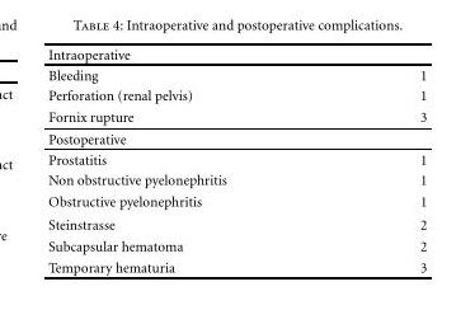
<table><thead><tr><td>Intraoperative</td><td></td></tr></thead><tbody><tr><td>Bleeding</td><td>1</td></tr><tr><td>Perforation (renal pelvis)</td><td>1</td></tr><tr><td>Fornix rupture</td><td>3</td></tr><tr><td colspan="2">Postoperative</td></tr><tr><td>Prostatitis</td><td>1</td></tr><tr><td>Non obstructive pyelonephritis</td><td>1</td></tr><tr><td>Obstructive pyelonephritis</td><td>1</td></tr><tr><td>Steinstrasse</td><td>2</td></tr><tr><td>Subcapsular hematoma</td><td>2</td></tr><tr><td>Temporary hematuria</td><td>3</td></tr></tbody></table>